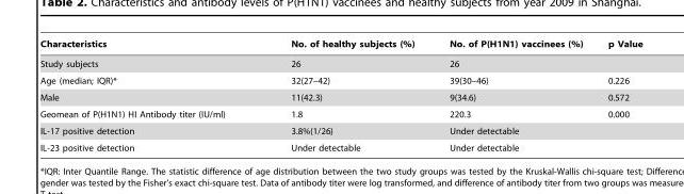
<table><thead><tr><td>Characteristics</td><td>No. of healthy subjects (%)</td><td>No. of P(H1N1) vaccinees (%)</td><td>p Value</td></tr></thead><tbody><tr><td>Study subjects</td><td>26</td><td>26</td><td></td></tr><tr><td>Age (median; IQR)*</td><td>32(27–42)</td><td>39(30–46)</td><td>0.226</td></tr><tr><td>Male</td><td>11(42.3)</td><td>9(34.6)</td><td>0.572</td></tr><tr><td>Geomean of P(H1N1) HI Antibody titer (IU/ml)</td><td>1.8</td><td>220.3</td><td>0.000</td></tr><tr><td>IL-17 positive detection</td><td>3.8%(1/26)</td><td>Under detectable</td><td></td></tr><tr><td>IL-23 positive detection</td><td>Under detectable</td><td>Under detectable</td><td></td></tr></tbody></table>